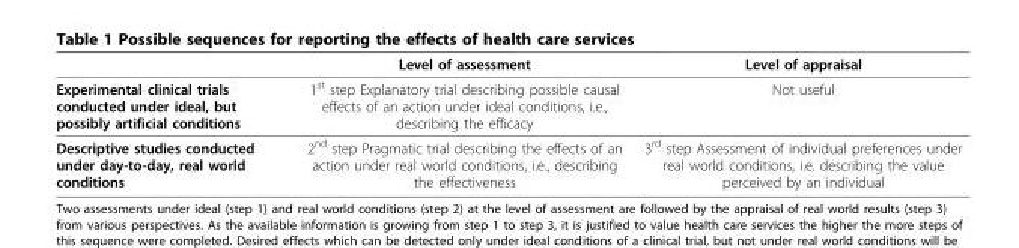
<table><thead><tr><td></td><td>Level of assessment</td><td>Level of appraisal</td></tr></thead><tbody><tr><td>Experimental clinical trials conducted under ideal, but possibly artificial conditions</td><td>1<sup>st</sup> step Explanatory trial describing possible causal effects of an action under ideal conditions, i.e., describing the efficacy</td><td>Not useful</td></tr><tr><td>Descriptive studies conducted under day-to-day, real world conditions</td><td>2<sup>nd</sup> step Pragmatic trial describing the effects of an action under real world conditions, i.e., describing the effectiveness</td><td>3<sup>rd</sup> step Assessment of individual preferences under real world conditions, i.e. describing the value perceived by an individual</td></tr></tbody></table>